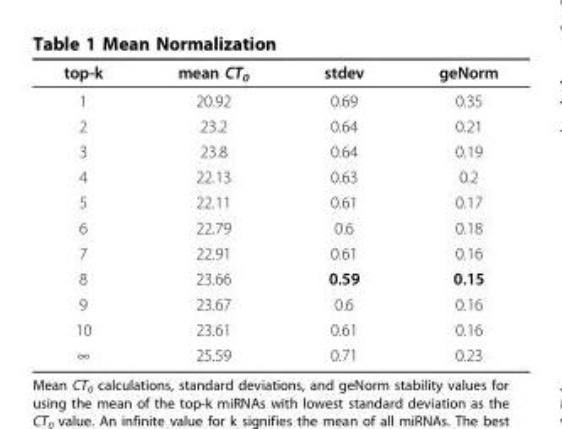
<table><thead><tr><td>top-k</td><td>mean CT<sub>0</sub></td><td>stdev</td><td>geNorm</td></tr></thead><tbody><tr><td>1</td><td>20.92</td><td>0.69</td><td>0.35</td></tr><tr><td>2</td><td>23.2</td><td>0.64</td><td>0.21</td></tr><tr><td>3</td><td>23.8</td><td>0.64</td><td>0.19</td></tr><tr><td>4</td><td>22.13</td><td>0.63</td><td>0.2</td></tr><tr><td>5</td><td>22.11</td><td>0.61</td><td>0.17</td></tr><tr><td>6</td><td>22.79</td><td>0.6</td><td>0.18</td></tr><tr><td>7</td><td>22.91</td><td>0.61</td><td>0.16</td></tr><tr><td>8</td><td>23.66</td><td>0.59</td><td>0.15</td></tr><tr><td>9</td><td>23.67</td><td>0.6</td><td>0.16</td></tr><tr><td>10</td><td>23.61</td><td>0.61</td><td>0.16</td></tr><tr><td>∞</td><td>25.59</td><td>0.71</td><td>0.23</td></tr></tbody></table>